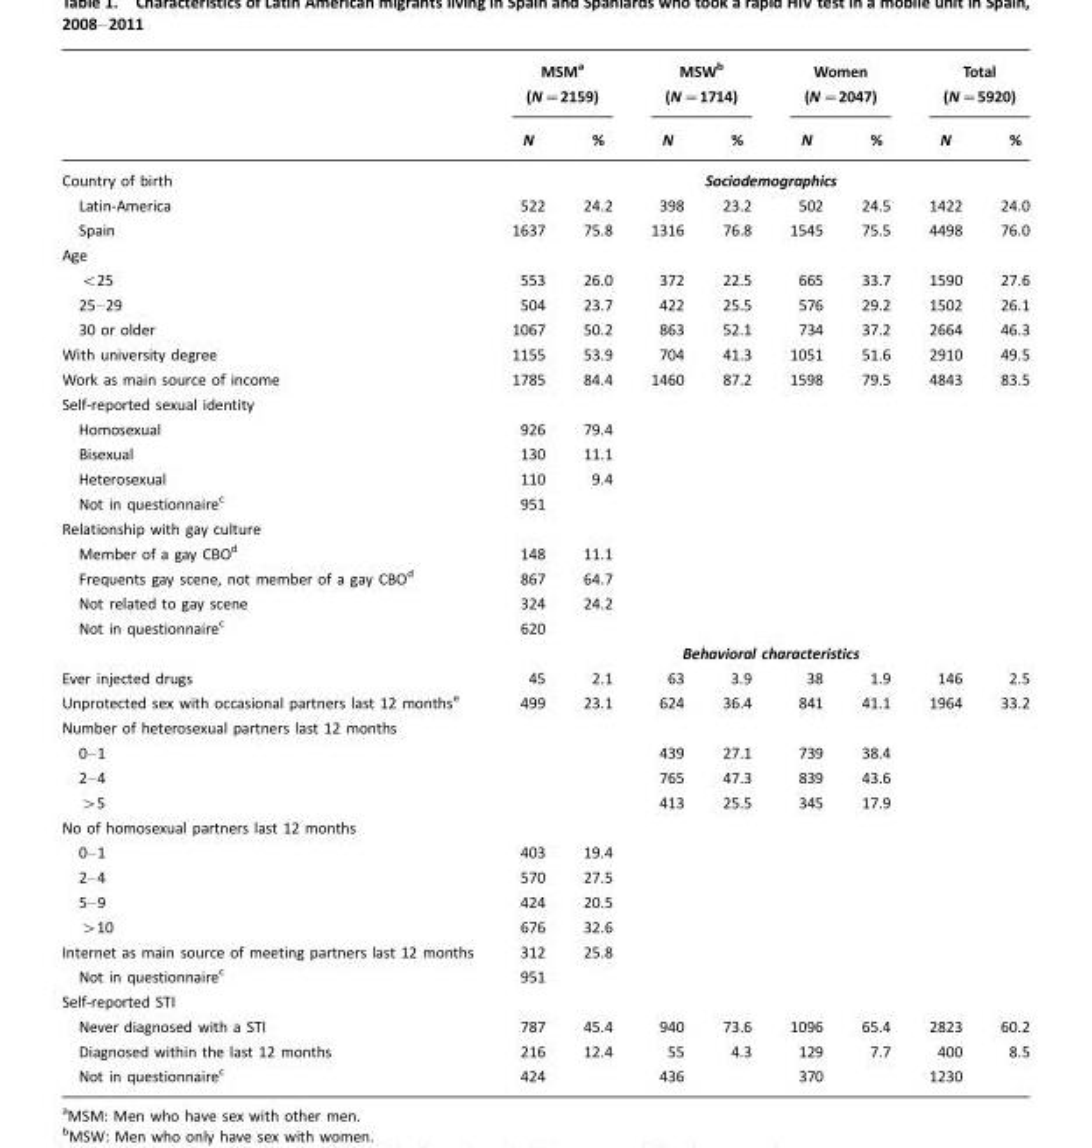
<table><thead><tr><td rowspan="2"></td><td colspan="2">MSM<sup>a</sup> (N=2159)</td><td colspan="2">MSW<sup>b</sup> (N=1714)</td><td colspan="2">Women (N=2047)</td><td colspan="2">Total (N=5920)</td></tr><tr><td>N</td><td>%</td><td>N</td><td>%</td><td>N</td><td>%</td><td>N</td><td>%</td></tr></thead><tbody><tr><td>Country of birth</td><td></td><td></td><td colspan="4">Sociodemographics</td><td></td><td></td></tr><tr><td>Latin-America</td><td>522</td><td>24.2</td><td>398</td><td>23.2</td><td>502</td><td>24.5</td><td>1422</td><td>24.0</td></tr><tr><td>Spain</td><td>1637</td><td>75.8</td><td>1316</td><td>76.8</td><td>1545</td><td>75.5</td><td>4498</td><td>76.0</td></tr><tr><td colspan="9">Age</td></tr><tr><td>&lt;25</td><td>553</td><td>26.0</td><td>372</td><td>22.5</td><td>665</td><td>33.7</td><td>1590</td><td>27.6</td></tr><tr><td>25–29</td><td>504</td><td>23.7</td><td>422</td><td>25.5</td><td>576</td><td>29.2</td><td>1502</td><td>26.1</td></tr><tr><td>30 or older</td><td>1067</td><td>50.2</td><td>863</td><td>52.1</td><td>734</td><td>37.2</td><td>2664</td><td>46.3</td></tr><tr><td>With university degree</td><td>1155</td><td>53.9</td><td>704</td><td>41.3</td><td>1051</td><td>51.6</td><td>2910</td><td>49.5</td></tr><tr><td>Work as main source of income</td><td>1785</td><td>84.4</td><td>1460</td><td>87.2</td><td>1598</td><td>79.5</td><td>4843</td><td>83.5</td></tr><tr><td colspan="9">Self-reported sexual identity</td></tr><tr><td>Homosexual</td><td>926</td><td>79.4</td><td></td><td></td><td></td><td></td><td></td><td></td></tr><tr><td>Bisexual</td><td>130</td><td>11.1</td><td></td><td></td><td></td><td></td><td></td><td></td></tr><tr><td>Heterosexual</td><td>110</td><td>9.4</td><td></td><td></td><td></td><td></td><td></td><td></td></tr><tr><td>Not in questionnaire<sup>c</sup></td><td>951</td><td></td><td></td><td></td><td></td><td></td><td></td><td></td></tr><tr><td colspan="9">Relationship with gay culture</td></tr><tr><td>Member of a gay CBO<sup>d</sup></td><td>148</td><td>11.1</td><td></td><td></td><td></td><td></td><td></td><td></td></tr><tr><td>Frequents gay scene, not member of a gay CBO<sup>d</sup></td><td>867</td><td>64.7</td><td></td><td></td><td></td><td></td><td></td><td></td></tr><tr><td>Not related to gay scene</td><td>324</td><td>24.2</td><td></td><td></td><td></td><td></td><td></td><td></td></tr><tr><td rowspan="2">Not in questionnaire<sup>c</sup></td><td>620</td><td></td><td></td><td></td><td></td><td></td><td></td><td></td></tr><tr><td></td><td></td><td colspan="4">Behavioral characteristics</td><td></td><td></td></tr><tr><td>Ever injected drugs</td><td>45</td><td>2.1</td><td>63</td><td>3.9</td><td>38</td><td>1.9</td><td>146</td><td>2.5</td></tr><tr><td>Unprotected sex with occasional partners last 12 months<sup>e</sup></td><td>499</td><td>23.1</td><td>624</td><td>36.4</td><td>841</td><td>41.1</td><td>1964</td><td>33.2</td></tr><tr><td colspan="9">Number of heterosexual partners last 12 months</td></tr><tr><td>0–1</td><td></td><td></td><td>439</td><td>27.1</td><td>739</td><td>38.4</td><td></td><td></td></tr><tr><td>2–4</td><td></td><td></td><td>765</td><td>47.3</td><td>839</td><td>43.6</td><td></td><td></td></tr><tr><td>&gt;5</td><td></td><td></td><td>413</td><td>25.5</td><td>345</td><td>17.9</td><td></td><td></td></tr><tr><td colspan="9">No of homosexual partners last 12 months</td></tr><tr><td>0–1</td><td>403</td><td>19.4</td><td></td><td></td><td></td><td></td><td></td><td></td></tr><tr><td>2–4</td><td>570</td><td>27.5</td><td></td><td></td><td></td><td></td><td></td><td></td></tr><tr><td>5–9</td><td>424</td><td>20.5</td><td></td><td></td><td></td><td></td><td></td><td></td></tr><tr><td>&gt;10</td><td>676</td><td>32.6</td><td></td><td></td><td></td><td></td><td></td><td></td></tr><tr><td>Internet as main source of meeting partners last 12 months</td><td>312</td><td>25.8</td><td></td><td></td><td></td><td></td><td></td><td></td></tr><tr><td>Not in questionnaire<sup>c</sup></td><td>951</td><td></td><td></td><td></td><td></td><td></td><td></td><td></td></tr><tr><td colspan="9">Self-reported STI</td></tr><tr><td>Never diagnosed with a STI</td><td>787</td><td>45.4</td><td>940</td><td>73.6</td><td>1096</td><td>65.4</td><td>2823</td><td>60.2</td></tr><tr><td>Diagnosed within the last 12 months</td><td>216</td><td>12.4</td><td>55</td><td>4.3</td><td>129</td><td>7.7</td><td>400</td><td>8.5</td></tr><tr><td>Not in questionnaire<sup>c</sup></td><td>424</td><td></td><td>436</td><td></td><td>370</td><td></td><td>1230</td><td></td></tr></tbody></table>